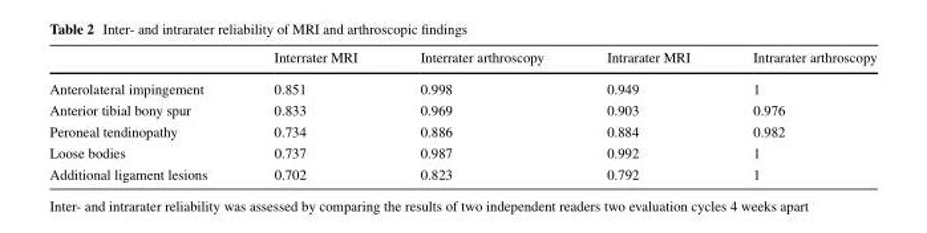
<table><thead><tr><td></td><td>Interrater MRI</td><td>Interrater arthroscopy</td><td>Intrarater MRI</td><td>Intrarater arthroscopy</td></tr></thead><tbody><tr><td>Anterolateral impingement</td><td>0.851</td><td>0.998</td><td>0.949</td><td>1</td></tr><tr><td>Anterior tibial bony spur</td><td>0.833</td><td>0.969</td><td>0.903</td><td>0.976</td></tr><tr><td>Peroneal tendinopathy</td><td>0.734</td><td>0.886</td><td>0.884</td><td>0.982</td></tr><tr><td>Loose bodies</td><td>0.737</td><td>0.987</td><td>0.992</td><td>1</td></tr><tr><td>Additional ligament lesions</td><td>0.702</td><td>0.823</td><td>0.792</td><td>1</td></tr></tbody></table>